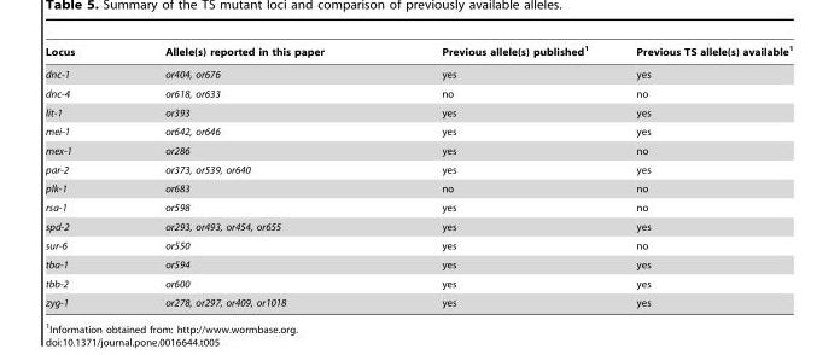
<table><thead><tr><td>Locus</td><td>Allele(s) reported in this paper</td><td>Previous allele(s) published<sup>1</sup></td><td>Previous TS allele(s) available<sup>1</sup></td></tr></thead><tbody><tr><td>dnc-1</td><td>or404, or676</td><td>yes</td><td>yes</td></tr><tr><td>dnc-4</td><td>or618, or633</td><td>no</td><td>no</td></tr><tr><td>lit-1</td><td>or393</td><td>yes</td><td>yes</td></tr><tr><td>mei-1</td><td>or642, or646</td><td>yes</td><td>yes</td></tr><tr><td>mex-1</td><td>or286</td><td>yes</td><td>no</td></tr><tr><td>par-2</td><td>or373, or539, or640</td><td>yes</td><td>yes</td></tr><tr><td>plk-1</td><td>or683</td><td>no</td><td>no</td></tr><tr><td>rsa-1</td><td>or598</td><td>yes</td><td>no</td></tr><tr><td>spd-2</td><td>or293, or493, or454, or655</td><td>yes</td><td>yes</td></tr><tr><td>sur-6</td><td>or550</td><td>yes</td><td>no</td></tr><tr><td>tba-1</td><td>or594</td><td>yes</td><td>yes</td></tr><tr><td>tbb-2</td><td>or600</td><td>yes</td><td>yes</td></tr><tr><td>zyg-1</td><td>or278, or297, or409, or1018</td><td>yes</td><td>yes</td></tr></tbody></table>